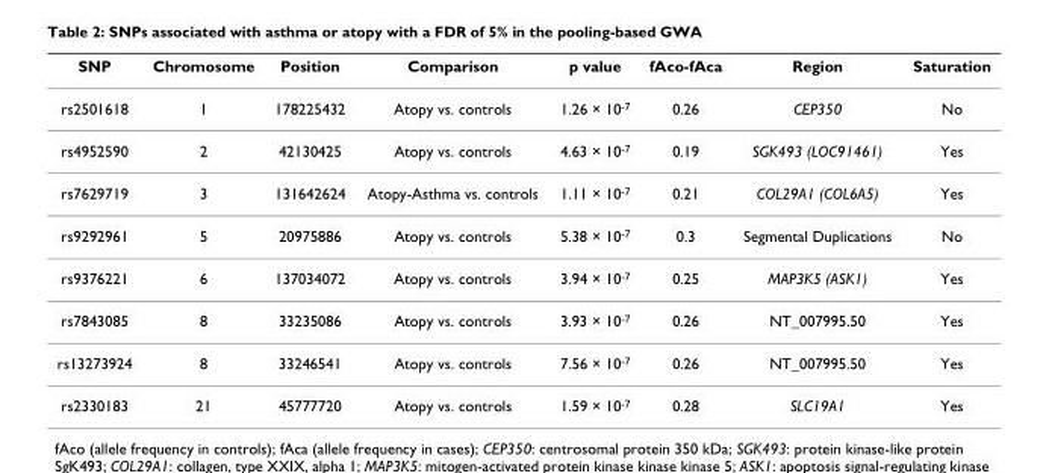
<table><thead><tr><td>SNP</td><td>Chromosome</td><td>Position</td><td>Comparison</td><td>p value</td><td>fAco-fAca</td><td>Region</td><td>Saturation</td></tr></thead><tbody><tr><td>rs2501618</td><td>1</td><td>178225432</td><td>Atopy vs. controls</td><td>1.26 × 10<sup>-7</sup></td><td>0.26</td><td>CEP350</td><td>No</td></tr><tr><td>rs4952590</td><td>2</td><td>42130425</td><td>Atopy vs. controls</td><td>4.63 × 10<sup>-7</sup></td><td>0.19</td><td>SGK493 (LOC91461)</td><td>Yes</td></tr><tr><td>rs7629719</td><td>3</td><td>131642624</td><td>Atopy-Asthma vs. controls</td><td>1.11 × 10<sup>-7</sup></td><td>0.21</td><td>COL29A1 (COL6A5)</td><td>Yes</td></tr><tr><td>rs9292961</td><td>5</td><td>20975886</td><td>Atopy vs. controls</td><td>5.38 × 10<sup>-7</sup></td><td>0.3</td><td>Segmental Duplications</td><td>No</td></tr><tr><td>rs9376221</td><td>6</td><td>137034072</td><td>Atopy vs. controls</td><td>3.94 × 10<sup>-7</sup></td><td>0.25</td><td>MAP3K5 (ASK1)</td><td>Yes</td></tr><tr><td>rs7843085</td><td>8</td><td>33235086</td><td>Atopy vs. controls</td><td>3.93 × 10<sup>-7</sup></td><td>0.26</td><td>NT_007995.50</td><td>Yes</td></tr><tr><td>rs13273924</td><td>8</td><td>33246541</td><td>Atopy vs. controls</td><td>7.56 × 10<sup>-7</sup></td><td>0.26</td><td>NT_007995.50</td><td>Yes</td></tr><tr><td>rs2330183</td><td>21</td><td>45777720</td><td>Atopy vs. controls</td><td>1.59 × 10<sup>-7</sup></td><td>0.28</td><td>SLC19A1</td><td>Yes</td></tr></tbody></table>